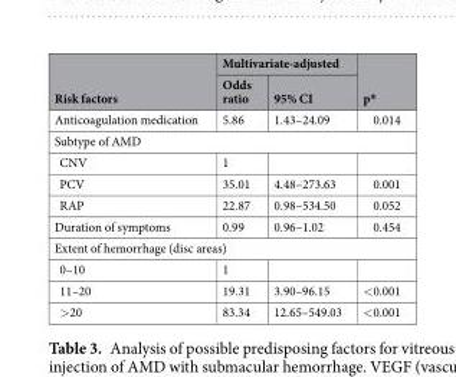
<table><thead><tr><td rowspan="2">Risk factors</td><td colspan="2">Multivariate-adjusted</td><td rowspan="2">p*</td></tr><tr><td>Odds ratio</td><td>95% CI</td></tr></thead><tbody><tr><td>Anticoagulation medication</td><td>5.86</td><td>1.43–24.09</td><td>0.014</td></tr><tr><td colspan="4">Subtype of AMD</td></tr><tr><td>CNV</td><td>1</td><td></td><td></td></tr><tr><td>PCV</td><td>35.01</td><td>4.48–273.63</td><td>0.001</td></tr><tr><td>RAP</td><td>22.87</td><td>0.98–534.50</td><td>0.052</td></tr><tr><td>Duration of symptoms</td><td>0.99</td><td>0.96–1.02</td><td>0.454</td></tr><tr><td colspan="4">Extent of hemorrhage (disc areas)</td></tr><tr><td>0–10</td><td>1</td><td></td><td></td></tr><tr><td>11–20</td><td>19.31</td><td>3.90–96.15</td><td>&lt;0.001</td></tr><tr><td>&gt;20</td><td>83.34</td><td>12.65–549.03</td><td>&lt;0.001</td></tr></tbody></table>